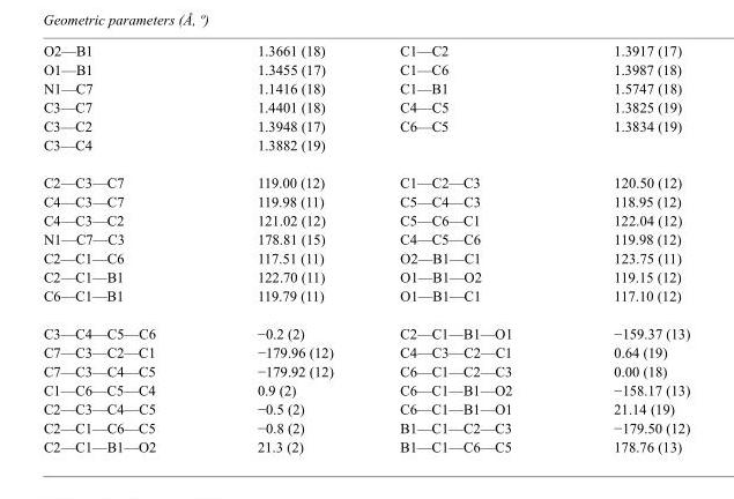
<table><tbody><tr><td>O2—B1</td><td>1.3661 (18)</td><td>C1—C2</td><td>1.3917 (17)</td></tr><tr><td>O1—B1</td><td>1.3455 (17)</td><td>C1—C6</td><td>1.3987 (18)</td></tr><tr><td>N1—C7</td><td>1.1416 (18)</td><td>C1—B1</td><td>1.5747 (18)</td></tr><tr><td>C3—C7</td><td>1.4401 (18)</td><td>C4—C5</td><td>1.3825 (19)</td></tr><tr><td>C3—C2</td><td>1.3948 (17)</td><td>C6—C5</td><td>1.3834 (19)</td></tr><tr><td>C3—C4</td><td>1.3882 (19)</td><td></td><td></td></tr><tr><td>C2—C3—C7</td><td>119.00 (12)</td><td>C1—C2—C3</td><td>120.50 (12)</td></tr><tr><td>C4—C3—C7</td><td>119.98 (11)</td><td>C5—C4—C3</td><td>118.95 (12)</td></tr><tr><td>C4—C3—C2</td><td>121.02 (12)</td><td>C5—C6—C1</td><td>122.04 (12)</td></tr><tr><td>N1—C7—C3</td><td>178.81 (15)</td><td>C4—C5—C6</td><td>119.98 (12)</td></tr><tr><td>C2—C1—C6</td><td>117.51 (11)</td><td>O2—B1—C1</td><td>123.75 (11)</td></tr><tr><td>C2—C1—B1</td><td>122.70 (11)</td><td>O1—B1—O2</td><td>119.15 (12)</td></tr><tr><td>C6—C1—B1</td><td>119.79 (11)</td><td>O1—B1—C1</td><td>117.10 (12)</td></tr><tr><td>C3—C4—C5—C6</td><td>−0.2 (2)</td><td>C2—C1—B1—O1</td><td>−159.37 (13)</td></tr><tr><td>C7—C3—C2—C1</td><td>−179.96 (12)</td><td>C4—C3—C2—C1</td><td>0.64 (19)</td></tr><tr><td>C7—C3—C4—C5</td><td>−179.92 (12)</td><td>C6—C1—C2—C3</td><td>0.00 (18)</td></tr><tr><td>C1—C6—C5—C4</td><td>0.9 (2)</td><td>C6—C1—B1—O2</td><td>−158.17 (13)</td></tr><tr><td>C2—C3—C4—C5</td><td>−0.5 (2)</td><td>C6—C1—B1—O1</td><td>21.14 (19)</td></tr><tr><td>C2—C1—C6—C5</td><td>−0.8 (2)</td><td>B1—C1—C2—C3</td><td>−179.50 (12)</td></tr><tr><td>C2—C1—B1—O2</td><td>21.3 (2)</td><td>B1—C1—C6—C5</td><td>178.76 (13)</td></tr></tbody></table>